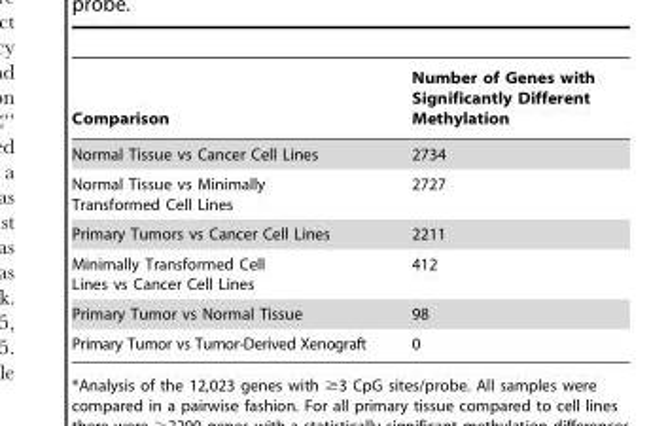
<table><thead><tr><td>Comparison</td><td>Number of Genes with Significantly Different Methylation</td></tr></thead><tbody><tr><td>Normal Tissue vs Cancer Cell Lines</td><td>2734</td></tr><tr><td>Normal Tissue vs Minimally Transformed Cell Lines</td><td>2727</td></tr><tr><td>Primary Tumors vs Cancer Cell Lines</td><td>2211</td></tr><tr><td>Minimally Transformed Cell Lines vs Cancer Cell Lines</td><td>412</td></tr><tr><td>Primary Tumor vs Normal Tissue</td><td>98</td></tr><tr><td>Primary Tumor vs Tumor-Derived Xenograft</td><td>0</td></tr></tbody></table>